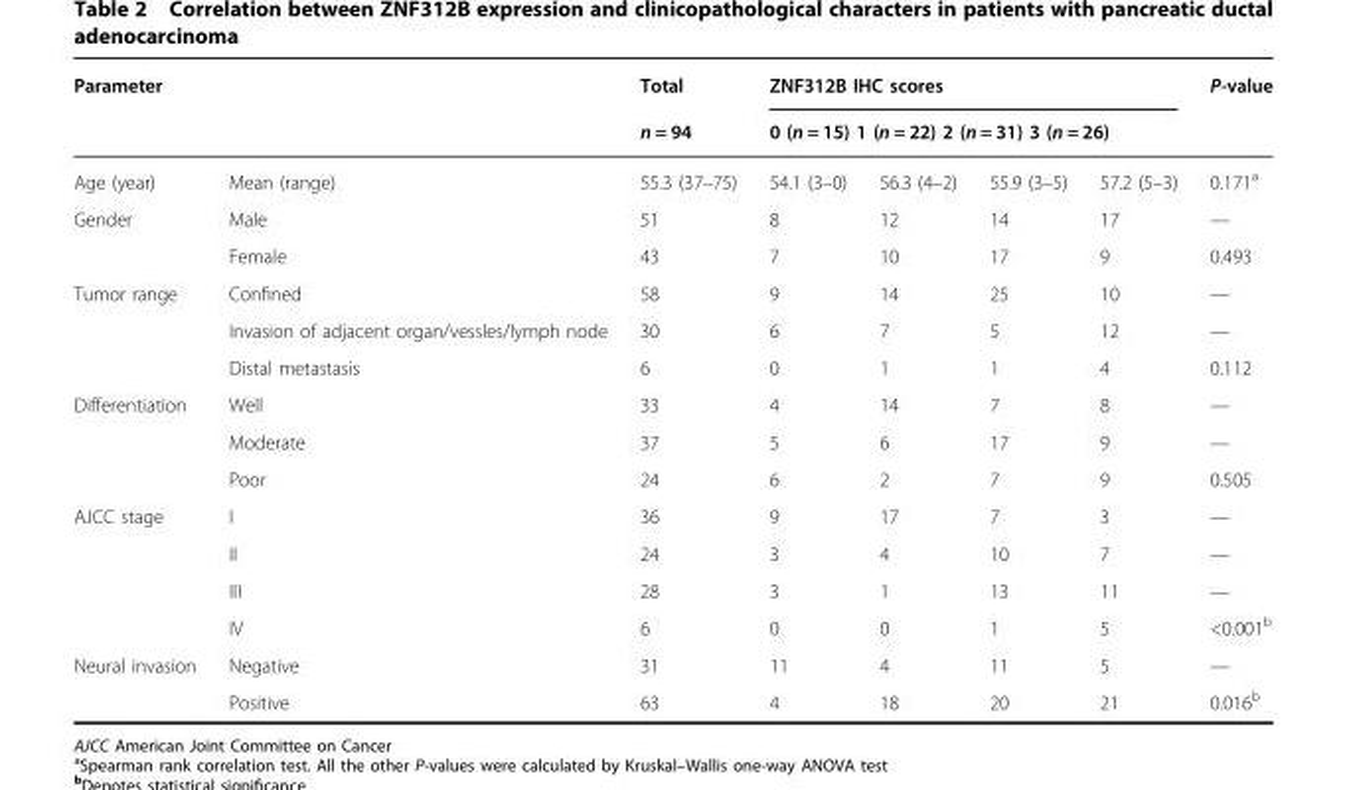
<table><thead><tr><td rowspan="3">Parameter Age (year)</td><td rowspan="3">Mean (range)</td><td rowspan="3">Total n = 94 55.3 (37–75)</td><td rowspan="2" colspan="4">ZNF312B IHC scores 0 (n = 15) 1 (n = 22) 2 (n = 31) 3 (n = 26)</td><td rowspan="3">P-value 0.171<sup>a</sup></td></tr><tr></tr><tr><td>54.1 (3–0)</td><td>56.3 (4–2)</td><td>55.9 (3–5)</td><td>57.2 (5–3)</td></tr></thead><tbody><tr><td rowspan="2">Gender</td><td>Male</td><td>51</td><td>8</td><td>12</td><td>14</td><td>17</td><td>—</td></tr><tr><td>Female</td><td>43</td><td>7</td><td>10</td><td>17</td><td>9</td><td>0.493</td></tr><tr><td rowspan="3">Tumor range</td><td>Confined</td><td>58</td><td>9</td><td>14</td><td>25</td><td>10</td><td>—</td></tr><tr><td>Invasion of adjacent organ/vessles/lymph node</td><td>30</td><td>6</td><td>7</td><td>5</td><td>12</td><td>—</td></tr><tr><td>Distal metastasis</td><td>6</td><td>0</td><td>1</td><td>1</td><td>4</td><td>0.112</td></tr><tr><td rowspan="3">Differentiation</td><td>Well</td><td>33</td><td>4</td><td>14</td><td>7</td><td>8</td><td>—</td></tr><tr><td>Moderate</td><td>37</td><td>5</td><td>6</td><td>17</td><td>9</td><td>—</td></tr><tr><td>Poor</td><td>24</td><td>6</td><td>2</td><td>7</td><td>9</td><td>0.505</td></tr><tr><td rowspan="4">AJCC stage</td><td>I</td><td>36</td><td>9</td><td>17</td><td>7</td><td>3</td><td>—</td></tr><tr><td>II</td><td>24</td><td>3</td><td>4</td><td>10</td><td>7</td><td>—</td></tr><tr><td>III</td><td>28</td><td>3</td><td>1</td><td>13</td><td>11</td><td>—</td></tr><tr><td>IV</td><td>6</td><td>0</td><td>0</td><td>1</td><td>5</td><td>&lt;0.001<sup>b</sup></td></tr><tr><td rowspan="2">Neural invasion</td><td>Negative</td><td>31</td><td>11</td><td>4</td><td>11</td><td>5</td><td>—</td></tr><tr><td>Positive</td><td>63</td><td>4</td><td>18</td><td>20</td><td>21</td><td>0.016<sup>b</sup></td></tr></tbody></table>